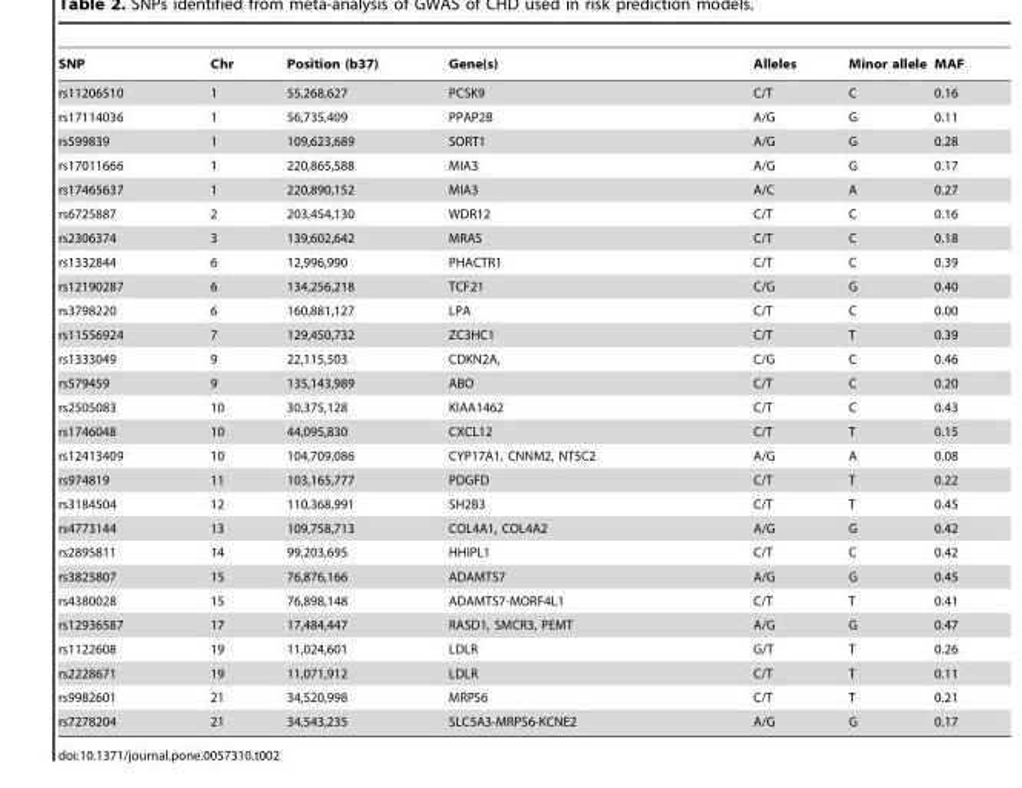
<table><thead><tr><td>SNP</td><td>Chr</td><td>Position (b37)</td><td>Gene(s)</td><td>Alleles</td><td>Minor allele</td><td>MAF</td></tr></thead><tbody><tr><td>rs11206510</td><td>1</td><td>55,268,627</td><td>PCSK9</td><td>C/T</td><td>C</td><td>0.16</td></tr><tr><td>rs17114036</td><td>1</td><td>56,735,409</td><td>PPAP2B</td><td>A/G</td><td>G</td><td>0.11</td></tr><tr><td>rs599839</td><td>1</td><td>109,623,689</td><td>SORT1</td><td>A/G</td><td>G</td><td>0.28</td></tr><tr><td>rs17011666</td><td>1</td><td>220,865,588</td><td>MIA3</td><td>A/G</td><td>G</td><td>0.17</td></tr><tr><td>rs17465637</td><td>1</td><td>220,890,152</td><td>MIA3</td><td>A/C</td><td>A</td><td>0.27</td></tr><tr><td>rs6725887</td><td>2</td><td>203,454,130</td><td>WDR12</td><td>C/T</td><td>C</td><td>0.16</td></tr><tr><td>rs2306374</td><td>3</td><td>139,602,642</td><td>MRAS</td><td>C/T</td><td>C</td><td>0.18</td></tr><tr><td>rs1332844</td><td>6</td><td>12,996,990</td><td>PHACTR1</td><td>C/T</td><td>C</td><td>0.39</td></tr><tr><td>rs12190287</td><td>6</td><td>134,256,218</td><td>TCF21</td><td>C/G</td><td>G</td><td>0.40</td></tr><tr><td>rs3798220</td><td>6</td><td>160,881,127</td><td>LPA</td><td>C/T</td><td>C</td><td>0.00</td></tr><tr><td>rs11556924</td><td>7</td><td>129,450,732</td><td>ZC3HC1</td><td>C/T</td><td>T</td><td>0.39</td></tr><tr><td>rs1333049</td><td>9</td><td>22,115,503</td><td>CDKN2A,</td><td>C/G</td><td>C</td><td>0.46</td></tr><tr><td>rs579459</td><td>9</td><td>135,143,989</td><td>ABO</td><td>C/T</td><td>C</td><td>0.20</td></tr><tr><td>rs2505083</td><td>10</td><td>30,375,128</td><td>KIAA1462</td><td>C/T</td><td>C</td><td>0.43</td></tr><tr><td>rs1746048</td><td>10</td><td>44,095,830</td><td>CXCL12</td><td>C/T</td><td>T</td><td>0.15</td></tr><tr><td>rs12413409</td><td>10</td><td>104,709,086</td><td>CYP17A1, CNNM2, NT5C2</td><td>A/G</td><td>A</td><td>0.08</td></tr><tr><td>rs974819</td><td>11</td><td>103,165,777</td><td>PDGFD</td><td>C/T</td><td>T</td><td>0.22</td></tr><tr><td>rs3184504</td><td>12</td><td>110,368,991</td><td>SH2B3</td><td>C/T</td><td>T</td><td>0.45</td></tr><tr><td>rs4773144</td><td>13</td><td>109,758,713</td><td>COL4A1, COL4A2</td><td>A/G</td><td>G</td><td>0.42</td></tr><tr><td>rs2895811</td><td>14</td><td>99,203,695</td><td>HHIPL1</td><td>C/T</td><td>C</td><td>0.42</td></tr><tr><td>rs3825807</td><td>15</td><td>76,876,166</td><td>ADAMTS7</td><td>A/G</td><td>G</td><td>0.45</td></tr><tr><td>rs4380028</td><td>15</td><td>76,898,148</td><td>ADAMTS7-MORF4L1</td><td>C/T</td><td>T</td><td>0.41</td></tr><tr><td>rs12936587</td><td>17</td><td>17,484,447</td><td>RASD1, SMCR3, PEMT</td><td>A/G</td><td>G</td><td>0.47</td></tr><tr><td>rs1122608</td><td>19</td><td>11,024,601</td><td>LDLR</td><td>G/T</td><td>T</td><td>0.26</td></tr><tr><td>rs2228671</td><td>19</td><td>11,071,912</td><td>LDLR</td><td>C/T</td><td>T</td><td>0.11</td></tr><tr><td>rs9982601</td><td>21</td><td>34,520,998</td><td>MRPS6</td><td>C/T</td><td>T</td><td>0.21</td></tr><tr><td>rs7278204</td><td>21</td><td>34,543,235</td><td>SLC5A3-MRPS6-KCNE2</td><td>A/G</td><td>G</td><td>0.17</td></tr></tbody></table>